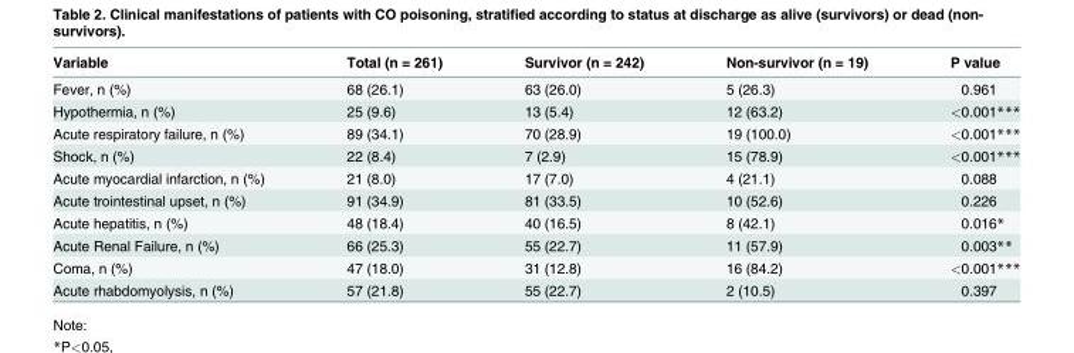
<table><thead><tr><td>Variable</td><td>Total (n = 261)</td><td>Survivor (n = 242)</td><td>Non-survivor (n = 19)</td><td>P value</td></tr></thead><tbody><tr><td>Fever, n (%)</td><td>68 (26.1)</td><td>63 (26.0)</td><td>5 (26.3)</td><td>0.961</td></tr><tr><td>Hypothermia, n (%)</td><td>25 (9.6)</td><td>13 (5.4)</td><td>12 (63.2)</td><td>&lt;0.001***</td></tr><tr><td>Acute respiratory failure, n (%)</td><td>89 (34.1)</td><td>70 (28.9)</td><td>19 (100.0)</td><td>&lt;0.001***</td></tr><tr><td>Shock, n (%)</td><td>22 (8.4)</td><td>7 (2.9)</td><td>15 (78.9)</td><td>&lt;0.001***</td></tr><tr><td>Acute myocardial infarction, n (%)</td><td>21 (8.0)</td><td>17 (7.0)</td><td>4 (21.1)</td><td>0.088</td></tr><tr><td>Acute trointestinal upset, n (%)</td><td>91 (34.9)</td><td>81 (33.5)</td><td>10 (52.6)</td><td>0.226</td></tr><tr><td>Acute hepatitis, n (%)</td><td>48 (18.4)</td><td>40 (16.5)</td><td>8 (42.1)</td><td>0.016*</td></tr><tr><td>Acute Renal Failure, n (%)</td><td>66 (25.3)</td><td>55 (22.7)</td><td>11 (57.9)</td><td>0.003**</td></tr><tr><td>Coma, n (%)</td><td>47 (18.0)</td><td>31 (12.8)</td><td>16 (84.2)</td><td>&lt;0.001***</td></tr><tr><td>Acute rhabdomyolysis, n (%)</td><td>57 (21.8)</td><td>55 (22.7)</td><td>2 (10.5)</td><td>0.397</td></tr></tbody></table>